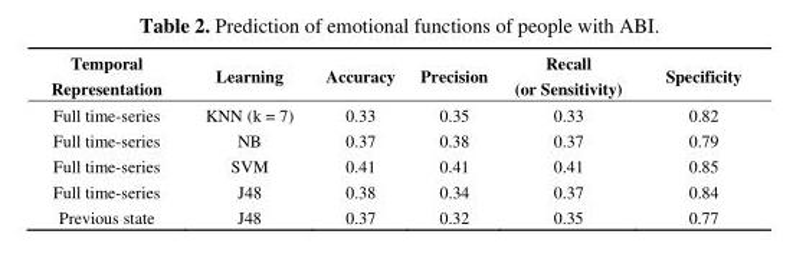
<table><thead><tr><td>Temporal Representation</td><td>Learning</td><td>Accuracy</td><td>Precision</td><td>Recall (or Sensitivity)</td><td>Specificity</td></tr></thead><tbody><tr><td>Full time-series</td><td>KNN (k = 7)</td><td>0.33</td><td>0.35</td><td>0.33</td><td>0.82</td></tr><tr><td>Full time-series</td><td>NB</td><td>0.37</td><td>0.38</td><td>0.37</td><td>0.79</td></tr><tr><td>Full time-series</td><td>SVM</td><td>0.41</td><td>0.41</td><td>0.41</td><td>0.85</td></tr><tr><td>Full time-series</td><td>J48</td><td>0.38</td><td>0.34</td><td>0.37</td><td>0.84</td></tr><tr><td>Previous state</td><td>J48</td><td>0.37</td><td>0.32</td><td>0.35</td><td>0.77</td></tr></tbody></table>